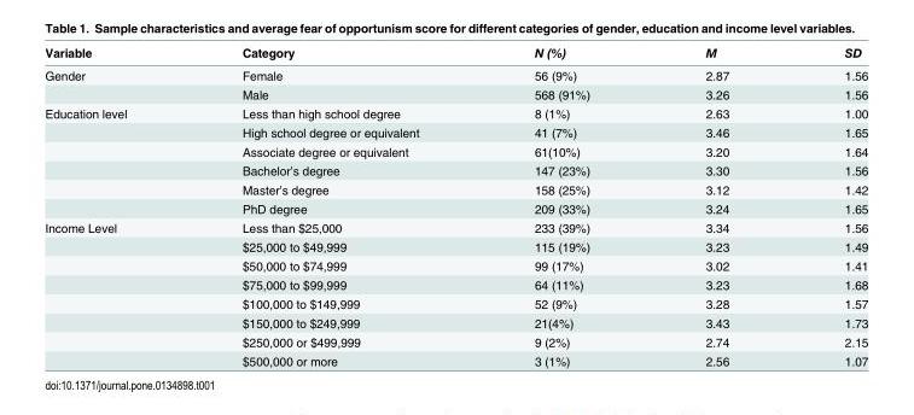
<table><thead><tr><td>Variable</td><td>Category</td><td>N (%)</td><td>M</td><td>SD</td></tr></thead><tbody><tr><td rowspan="2">Gender</td><td>Female</td><td>56 (9%)</td><td>2.87</td><td>1.56</td></tr><tr><td>Male</td><td>568 (91%)</td><td>3.26</td><td>1.56</td></tr><tr><td rowspan="6">Education level</td><td>Less than high school degree</td><td>8 (1%)</td><td>2.63</td><td>1.00</td></tr><tr><td>High school degree or equivalent</td><td>41 (7%)</td><td>3.46</td><td>1.65</td></tr><tr><td>Associate degree or equivalent</td><td>61(10%)</td><td>3.20</td><td>1.64</td></tr><tr><td>Bachelor’s degree</td><td>147 (23%)</td><td>3.30</td><td>1.56</td></tr><tr><td>Master’s degree</td><td>158 (25%)</td><td>3.12</td><td>1.42</td></tr><tr><td>PhD degree</td><td>209 (33%)</td><td>3.24</td><td>1.65</td></tr><tr><td rowspan="8">Income Level</td><td>Less than $25,000</td><td>233 (39%)</td><td>3.34</td><td>1.56</td></tr><tr><td>$25,000 to $49,999</td><td>115 (19%)</td><td>3.23</td><td>1.49</td></tr><tr><td>$50,000 to $74,999</td><td>99 (17%)</td><td>3.02</td><td>1.41</td></tr><tr><td>$75,000 to $99,999</td><td>64 (11%)</td><td>3.23</td><td>1.68</td></tr><tr><td>$100,000 to $149,999</td><td>52 (9%)</td><td>3.28</td><td>1.57</td></tr><tr><td>$150,000 to $249,999</td><td>21(4%)</td><td>3.43</td><td>1.73</td></tr><tr><td>$250,000 or $499,999</td><td>9 (2%)</td><td>2.74</td><td>2.15</td></tr><tr><td>$500,000 or more</td><td>3 (1%)</td><td>2.56</td><td>1.07</td></tr></tbody></table>